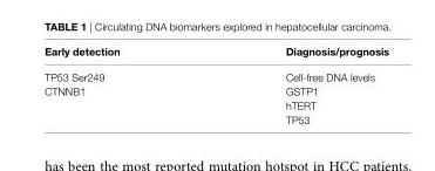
<table><thead><tr><td>early detection</td><td>Diagnosis/prognosis</td></tr></thead><tbody><tr><td>TP53 Ser249</td><td>Cell-free DNA levels</td></tr><tr><td rowspan="3">CTNNB1</td><td>GSTP1</td></tr><tr><td>hTERT</td></tr><tr><td>TP53</td></tr></tbody></table>